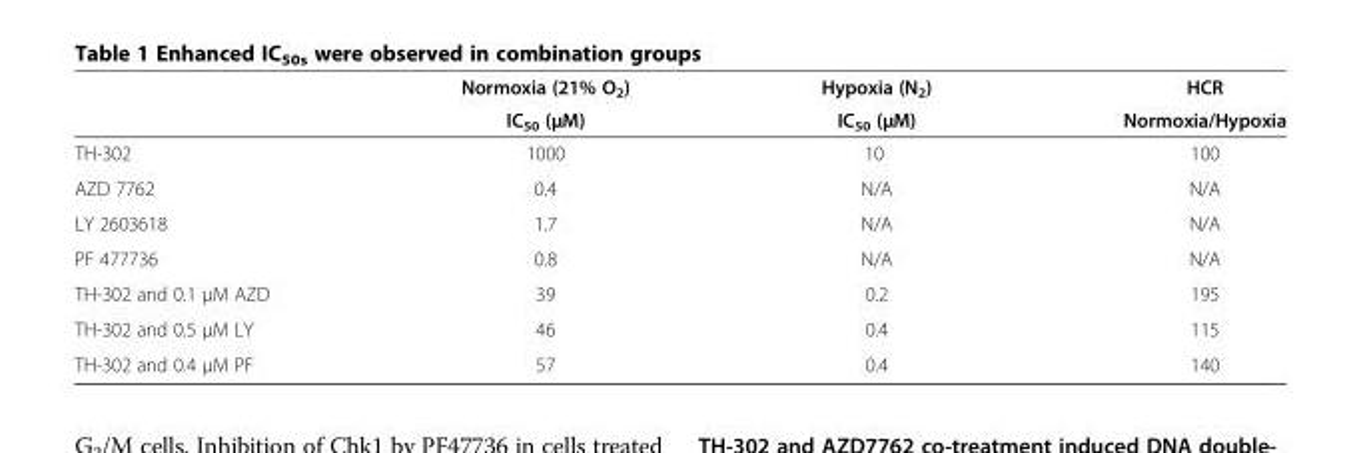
<table><thead><tr><td rowspan="2"></td><td rowspan="2">Normoxia (21% O<sub>2</sub>) IC<sub>50</sub> (μM)</td><td rowspan="2">Hypoxia (N<sub>2</sub>) IC<sub>50</sub> (μM)</td><td rowspan="2">HCR Normoxia/Hypoxia</td></tr><tr></tr></thead><tbody><tr><td>TH-302</td><td>1000</td><td>10</td><td>100</td></tr><tr><td>AZD 7762</td><td>0.4</td><td>N/A</td><td>N/A</td></tr><tr><td>LY 2603618</td><td>1.7</td><td>N/A</td><td>N/A</td></tr><tr><td>PF 477736</td><td>0.8</td><td>N/A</td><td>N/A</td></tr><tr><td>TH-302 and 0.1 μM AZD</td><td>39</td><td>0.2</td><td>195</td></tr><tr><td>TH-302 and 0.5 μM LY</td><td>46</td><td>0.4</td><td>115</td></tr><tr><td>TH-302 and 0.4 μM PF</td><td>57</td><td>0.4</td><td>140</td></tr></tbody></table>